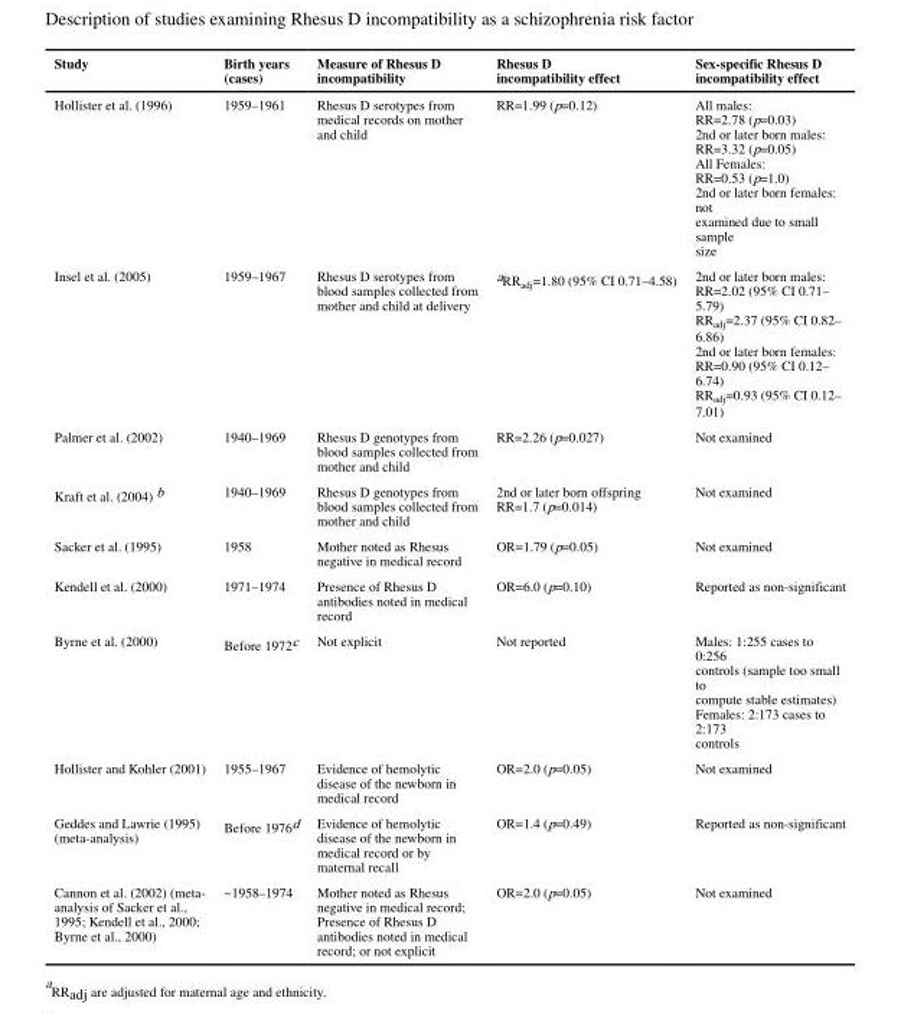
<table><thead><tr><td>Study</td><td>Birth years (cases)</td><td>Measure of Rhesus D incompatibility</td><td>Rhesus D incompatibility effect</td><td>Sex-specific Rhesus D incompatibility effect</td></tr></thead><tbody><tr><td>Hollister et al. (1996)</td><td>1959–1961</td><td>Rhesus D serotypes from medical records on mother and child</td><td>RR=1.99 (p=0.12)</td><td>All males: RR=2.78 (p=0.03) 2nd or later born males: RR=3.32 (p=0.05) All Females: RR=0.53 (p=1.0) 2nd or later born females: not examined due to small sample size</td></tr><tr><td>Insel et al. (2005)</td><td>1959–1967</td><td>Rhesus D serotypes from blood samples collected from mother and child at delivery</td><td>aRR<sub>adj</sub>=1.80 (95% CI 0.71–4.58)</td><td>2nd or later born males: RR=2.02 (95% CI 0.71– 5.79) RR<sub>adj</sub>=2.37 (95% CI 0.82– 6.86) 2nd or later born females: RR=0.90 (95% CI 0.12– 6.74) RR<sub>adj</sub>=0.93 (95% CI 0.12– 7.01)</td></tr><tr><td>Palmer et al. (2002)</td><td>1940–1969</td><td>Rhesus D genotypes from blood samples collected from mother and child</td><td>RR=2.26 (p=0.027)</td><td>Not examined</td></tr><tr><td>Kraft et al. (2004) b</td><td>1940–1969</td><td>Rhesus D genotypes from blood samples collected from mother and child</td><td>2nd or later born offspring RR=1.7 (p=0.014)</td><td>Not examined</td></tr><tr><td>Sacker et al. (1995)</td><td>1958</td><td>Mother noted as Rhesus negative in medical record</td><td>OR=1.79 (p=0.05)</td><td>Not examined</td></tr><tr><td>Kendell et al. (2000)</td><td>1971–1974</td><td>Presence of Rhesus D antibodies noted in medical record</td><td>OR=6.0 (p=0.10)</td><td>Reported as non-significant</td></tr><tr><td>Byrne et al. (2000)</td><td>Before 1972<sup>c</sup></td><td>Not explicit</td><td>Not reported</td><td>Males: 1:255 cases to 0:256 controls (sample too small to compute stable estimates) Females: 2:173 cases to 2:173 controls</td></tr><tr><td>Hollister and Kohler (2001)</td><td>1955–1967</td><td>Evidence of hemolytic disease of the newborn in medical record</td><td>OR=2.0 (p=0.05)</td><td>Not examined</td></tr><tr><td>Geddes and Lawrie (1995) (meta-analysis)</td><td>Before 1976<sup>d</sup></td><td>Evidence of hemolytic disease of the newborn in medical record or by maternal recall</td><td>OR=1.4 (p=0.49)</td><td>Reported as non-significant</td></tr><tr><td>Cannon et al. (2002) (meta- analysis of Sacker et al., 1995; Kendell et al., 2000; Byrne et al., 2000)</td><td>~1958–1974</td><td>Mother noted as Rhesus negative in medical record; Presence of Rhesus D antibodies noted in medical record; or not explicit</td><td>OR=2.0 (p=0.05)</td><td>Not examined</td></tr></tbody></table>